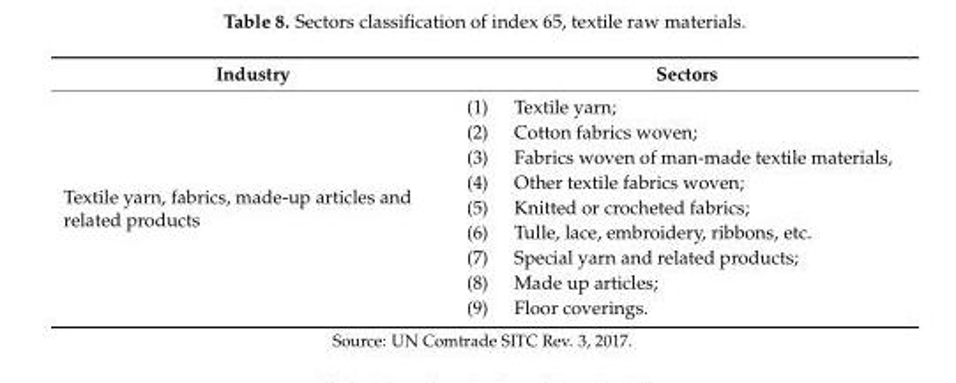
<table><thead><tr><td>Industry</td><td>Sectors</td></tr></thead><tbody><tr><td>Textile yarn, fabrics, made-up articles and related products</td><td>(1) Textile yarn; (2) Cotton fabrics woven; (3) Fabrics woven of man-made textile materials, (4) Other textile fabrics woven; (5) Knitted or crocheted fabrics; (6) Tulle, lace, embroidery, ribbons, etc. (7) Special yarn and related products; (8) Made up articles; (9) Floor coverings.</td></tr></tbody></table>